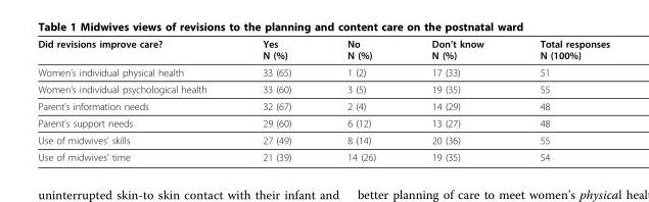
<table><thead><tr><td>Did revisions improve care?</td><td>Yes N (%)</td><td>No N (%)</td><td>Don’t know N (%)</td><td>Total responses N (100%)</td></tr></thead><tbody><tr><td>Women’s individual physical health</td><td>33 (65)</td><td>1 (2)</td><td>17 (33)</td><td>51</td></tr><tr><td>Women’s individual psychological health</td><td>33 (60)</td><td>3 (5)</td><td>19 (35)</td><td>55</td></tr><tr><td>Parent’s information needs</td><td>32 (67)</td><td>2 (4)</td><td>14 (29)</td><td>48</td></tr><tr><td>Parent’s support needs</td><td>29 (60)</td><td>6 (12)</td><td>13 (27)</td><td>48</td></tr><tr><td>Use of midwives’ skills</td><td>27 (49)</td><td>8 (14)</td><td>20 (36)</td><td>55</td></tr><tr><td>Use of midwives’ time</td><td>21 (39)</td><td>14 (26)</td><td>19 (35)</td><td>54</td></tr></tbody></table>